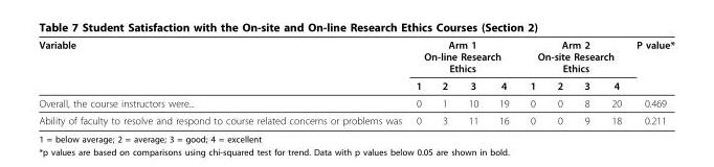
<table><thead><tr><td rowspan="2">Variable</td><td colspan="4">Arm 1 On-line Research Ethics</td><td colspan="4">Arm 2 On-site Research Ethics</td><td rowspan="2">P value*</td></tr><tr><td>1</td><td>2</td><td>3</td><td>4</td><td>1</td><td>2</td><td>3</td><td>4</td></tr></thead><tbody><tr><td>Overall, the course instructors were...</td><td>0</td><td>1</td><td>10</td><td>19</td><td>0</td><td>0</td><td>8</td><td>20</td><td>0.469</td></tr><tr><td>Ability of faculty to resolve and respond to course related concerns or problems was</td><td>0</td><td>3</td><td>11</td><td>16</td><td>0</td><td>0</td><td>9</td><td>18</td><td>0.211</td></tr></tbody></table>